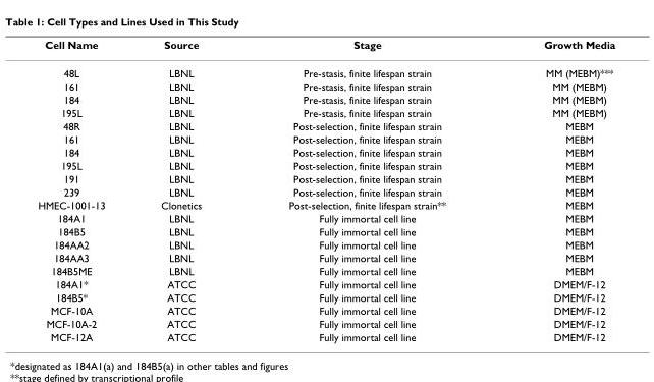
<table><thead><tr><td>Cell Name</td><td>Source</td><td>Stage</td><td>Growth Media</td></tr></thead><tbody><tr><td>48L</td><td>LBNL</td><td>Pre-stasis, finite lifespan strain</td><td>MM (MEBM)***</td></tr><tr><td>161</td><td>LBNL</td><td>Pre-stasis, finite lifespan strain</td><td>MM (MEBM)</td></tr><tr><td>184</td><td>LBNL</td><td>Pre-stasis, finite lifespan strain</td><td>MM (MEBM)</td></tr><tr><td>195L</td><td>LBNL</td><td>Pre-stasis, finite lifespan strain</td><td>MM (MEBM)</td></tr><tr><td>48R</td><td>LBNL</td><td>Post-selection, finite lifespan strain</td><td>MEBM</td></tr><tr><td>161</td><td>LBNL</td><td>Post-selection, finite lifespan strain</td><td>MEBM</td></tr><tr><td>184</td><td>LBNL</td><td>Post-selection, finite lifespan strain</td><td>MEBM</td></tr><tr><td>195L</td><td>LBNL</td><td>Post-selection, finite lifespan strain</td><td>MEBM</td></tr><tr><td>191</td><td>LBNL</td><td>Post-selection, finite lifespan strain</td><td>MEBM</td></tr><tr><td>239</td><td>LBNL</td><td>Post-selection, finite lifespan strain</td><td>MEBM</td></tr><tr><td>HMEC-1001-13</td><td>Clonetics</td><td>Post-selection, finite lifespan strain**</td><td>MEBM</td></tr><tr><td>184A1</td><td>LBNL</td><td>Fully immortal cell line</td><td>MEBM</td></tr><tr><td>184B5</td><td>LBNL</td><td>Fully immortal cell line</td><td>MEBM</td></tr><tr><td>184AA2</td><td>LBNL</td><td>Fully immortal cell line</td><td>MEBM</td></tr><tr><td>184AA3</td><td>LBNL</td><td>Fully immortal cell line</td><td>MEBM</td></tr><tr><td>184B5ME</td><td>LBNL</td><td>Fully immortal cell line</td><td>MEBM</td></tr><tr><td>184A1*</td><td>ATCC</td><td>Fully immortal cell line</td><td>DMEM/F-12</td></tr><tr><td>184B5*</td><td>ATCC</td><td>Fully immortal cell line</td><td>DMEM/F-12</td></tr><tr><td>MCF-10A</td><td>ATCC</td><td>Fully immortal cell line</td><td>DMEM/F-12</td></tr><tr><td>MCF-10A-2</td><td>ATCC</td><td>Fully immortal cell line</td><td>DMEM/F-12</td></tr><tr><td>MCF-12A</td><td>ATCC</td><td>Fully immortal cell line</td><td>DMEM/F-12</td></tr></tbody></table>